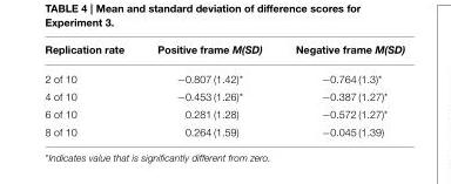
<table><thead><tr><td>Replication rate</td><td>Positive frame M(SD)</td><td>Negative frame M(SD)</td></tr></thead><tbody><tr><td>2 of 10</td><td>−0.807 (1.42)*</td><td>−0.764 (1.3)*</td></tr><tr><td>4 of 10</td><td>−0.453 (1.26)*</td><td>−0.387 (1.27)*</td></tr><tr><td>6 of 10</td><td>0.281 (1.28)</td><td>−0.572 (1.27)*</td></tr><tr><td>8 of 10</td><td>0.264 (1.59)</td><td>−0.045 (1.39)</td></tr></tbody></table>